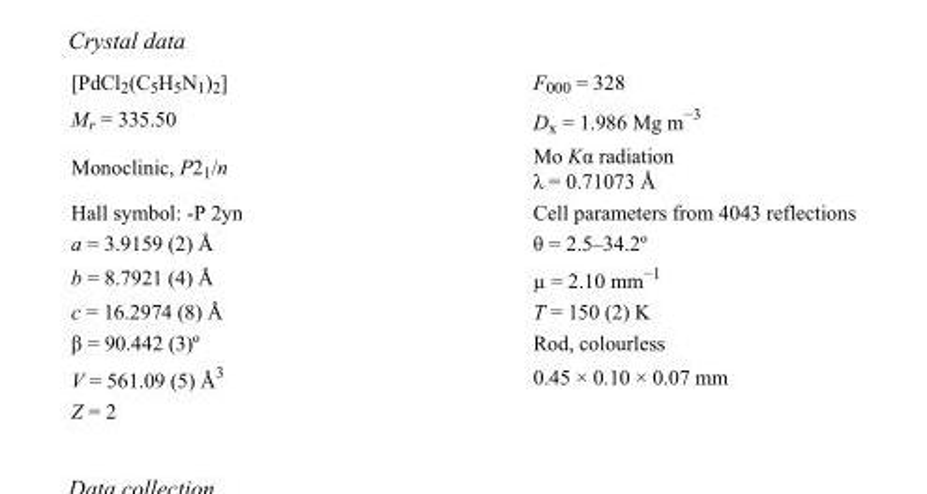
<table><tbody><tr><td>[PdCl2(C5H5N1)2]</td><td>F000 = 328</td></tr><tr><td>M<sub>r</sub> = 335.50</td><td>D<sub>x</sub> = 1.986 Mg m<sup>−3</sup></td></tr><tr><td>Monoclinic, P2<sub>1</sub>/n</td><td>Mo Kα radiation λ = 0.71073 Å</td></tr><tr><td>Hall symbol: -P 2yn</td><td>Cell parameters from 4043 reflections</td></tr><tr><td>a = 3.9159 (2) Å</td><td>θ = 2.5–34.2º</td></tr><tr><td>b = 8.7921 (4) Å</td><td>µ = 2.10 mm<sup>−1</sup></td></tr><tr><td>c = 16.2974 (8) Å</td><td>T = 150 (2) K</td></tr><tr><td>β = 90.442 (3)º</td><td>Rod, colourless</td></tr><tr><td>V = 561.09 (5) Å<sup>3</sup></td><td>0.45 × 0.10 × 0.07 mm</td></tr><tr><td>Z = 2</td><td></td></tr></tbody></table>